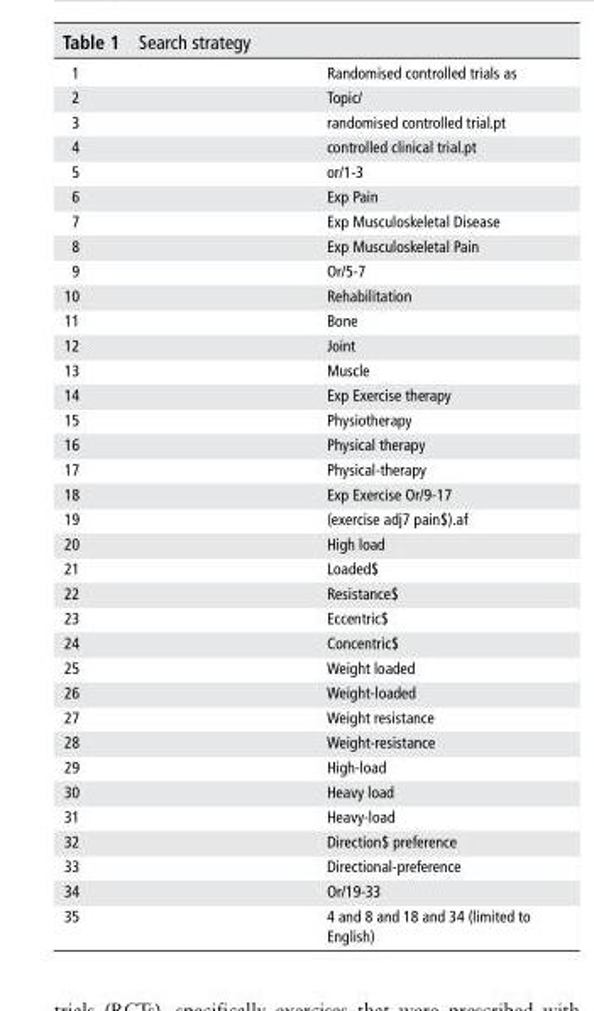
<table><tbody><tr><td>1</td><td>Randomised controlled trials as</td></tr><tr><td>2</td><td>Topic/</td></tr><tr><td>3</td><td>randomised controlled trial.pt</td></tr><tr><td>4</td><td>controlled clinical trial.pt</td></tr><tr><td>5</td><td>or/1-3</td></tr><tr><td>6</td><td>Exp Pain</td></tr><tr><td>7</td><td>Exp Musculoskeletal Disease</td></tr><tr><td>8</td><td>Exp Musculoskeletal Pain</td></tr><tr><td>9</td><td>Or/5-7</td></tr><tr><td>10</td><td>Rehabilitation</td></tr><tr><td>11</td><td>Bone</td></tr><tr><td>12</td><td>Joint</td></tr><tr><td>13</td><td>Muscle</td></tr><tr><td>14</td><td>Exp Exercise therapy</td></tr><tr><td>15</td><td>Physiotherapy</td></tr><tr><td>16</td><td>Physical therapy</td></tr><tr><td>17</td><td>Physical-therapy</td></tr><tr><td>18</td><td>Exp Exercise Or/9-17</td></tr><tr><td>19</td><td>(exercise adj7 pain$).af</td></tr><tr><td>20</td><td>High load</td></tr><tr><td>21</td><td>Loaded$</td></tr><tr><td>22</td><td>Resistance$</td></tr><tr><td>23</td><td>Eccentric$</td></tr><tr><td>24</td><td>Concentric$</td></tr><tr><td>25</td><td>Weight loaded</td></tr><tr><td>26</td><td>Weight-loaded</td></tr><tr><td>27</td><td>Weight resistance</td></tr><tr><td>28</td><td>Weight-resistance</td></tr><tr><td>29</td><td>High-load</td></tr><tr><td>30</td><td>Heavy load</td></tr><tr><td>31</td><td>Heavy-load</td></tr><tr><td>32</td><td>Direction$ preference</td></tr><tr><td>33</td><td>Directional-preference</td></tr><tr><td>34</td><td>Or/19-33</td></tr><tr><td>35</td><td>4 and 8 and 18 and 34 (limited to English)</td></tr></tbody></table>